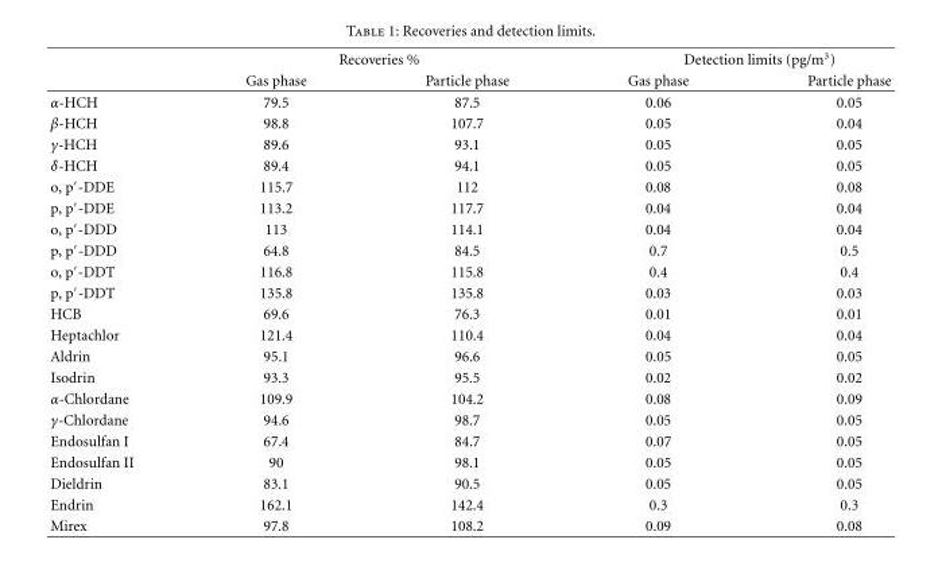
<table><thead><tr><td rowspan="2"></td><td colspan="2">Recoveries %</td><td colspan="2">Detection limits (pg/m<sup>3</sup>)</td></tr><tr><td>Gas phase</td><td>Particle phase</td><td>Gas phase</td><td>Particle phase</td></tr></thead><tbody><tr><td>α-HCH</td><td>79.5</td><td>87.5</td><td>0.06</td><td>0.05</td></tr><tr><td>β-HCH</td><td>98.8</td><td>107.7</td><td>0.05</td><td>0.04</td></tr><tr><td>γ-HCH</td><td>89.6</td><td>93.1</td><td>0.05</td><td>0.05</td></tr><tr><td>δ-HCH</td><td>89.4</td><td>94.1</td><td>0.05</td><td>0.05</td></tr><tr><td>o, p′-DDE</td><td>115.7</td><td>112</td><td>0.08</td><td>0.08</td></tr><tr><td>p, p′-DDE</td><td>113.2</td><td>117.7</td><td>0.04</td><td>0.04</td></tr><tr><td>o, p′-DDD</td><td>113</td><td>114.1</td><td>0.04</td><td>0.04</td></tr><tr><td>p, p′-DDD</td><td>64.8</td><td>84.5</td><td>0.7</td><td>0.5</td></tr><tr><td>o, p′-DDT</td><td>116.8</td><td>115.8</td><td>0.4</td><td>0.4</td></tr><tr><td>p, p′-DDT</td><td>135.8</td><td>135.8</td><td>0.03</td><td>0.03</td></tr><tr><td>HCB</td><td>69.6</td><td>76.3</td><td>0.01</td><td>0.01</td></tr><tr><td>Heptachlor</td><td>121.4</td><td>110.4</td><td>0.04</td><td>0.04</td></tr><tr><td>Aldrin</td><td>95.1</td><td>96.6</td><td>0.05</td><td>0.05</td></tr><tr><td>Isodrin</td><td>93.3</td><td>95.5</td><td>0.02</td><td>0.02</td></tr><tr><td>α-Chlordane</td><td>109.9</td><td>104.2</td><td>0.08</td><td>0.09</td></tr><tr><td>γ-Chlordane</td><td>94.6</td><td>98.7</td><td>0.05</td><td>0.05</td></tr><tr><td>Endosulfan I</td><td>67.4</td><td>84.7</td><td>0.07</td><td>0.05</td></tr><tr><td>Endosulfan II</td><td>90</td><td>98.1</td><td>0.05</td><td>0.05</td></tr><tr><td>Dieldrin</td><td>83.1</td><td>90.5</td><td>0.05</td><td>0.05</td></tr><tr><td>Endrin</td><td>162.1</td><td>142.4</td><td>0.3</td><td>0.3</td></tr><tr><td>Mirex</td><td>97.8</td><td>108.2</td><td>0.09</td><td>0.08</td></tr></tbody></table>